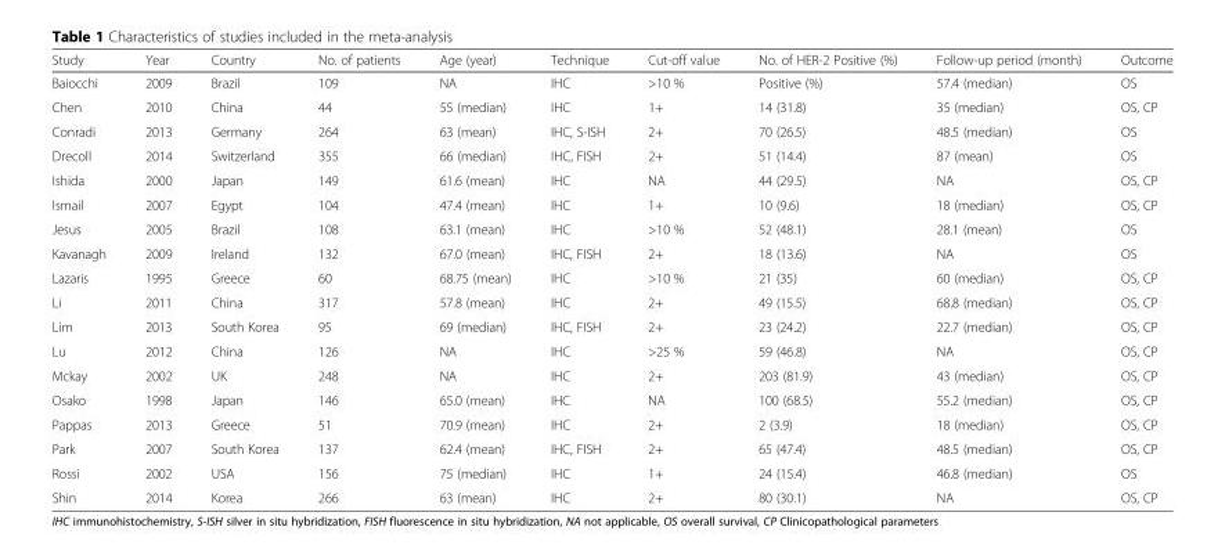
<table><thead><tr><td>Study</td><td>Year</td><td>Country</td><td>No. of patients</td><td>Age (year)</td><td>Technique</td><td>Cut-off value</td><td>No. of HER-2 Positive (%)</td><td>Follow-up period (month)</td><td>Outcome</td></tr></thead><tbody><tr><td>Baiocchi</td><td>2009</td><td>Brazil</td><td>109</td><td>NA</td><td>IHC</td><td>&gt;10 %</td><td>Positive (%)</td><td>57.4 (median)</td><td>OS</td></tr><tr><td>Chen</td><td>2010</td><td>China</td><td>44</td><td>55 (median)</td><td>IHC</td><td>1+</td><td>14 (31.8)</td><td>35 (median)</td><td>OS, CP</td></tr><tr><td>Conradi</td><td>2013</td><td>Germany</td><td>264</td><td>63 (mean)</td><td>IHC, S-ISH</td><td>2+</td><td>70 (26.5)</td><td>48.5 (median)</td><td>OS</td></tr><tr><td>Drecoll</td><td>2014</td><td>Switzerland</td><td>355</td><td>66 (median)</td><td>IHC, FISH</td><td>2+</td><td>51 (14.4)</td><td>87 (mean)</td><td>OS</td></tr><tr><td>Ishida</td><td>2000</td><td>Japan</td><td>149</td><td>61.6 (mean)</td><td>IHC</td><td>NA</td><td>44 (29.5)</td><td>NA</td><td>OS, CP</td></tr><tr><td>Ismail</td><td>2007</td><td>Egypt</td><td>104</td><td>47.4 (mean)</td><td>IHC</td><td>1+</td><td>10 (9.6)</td><td>18 (median)</td><td>OS, CP</td></tr><tr><td>Jesus</td><td>2005</td><td>Brazil</td><td>108</td><td>63.1 (mean)</td><td>IHC</td><td>&gt;10 %</td><td>52 (48.1)</td><td>28.1 (mean)</td><td>OS</td></tr><tr><td>Kavanagh</td><td>2009</td><td>Ireland</td><td>132</td><td>67.0 (mean)</td><td>IHC, FISH</td><td>2+</td><td>18 (13.6)</td><td>NA</td><td>OS</td></tr><tr><td>Lazaris</td><td>1995</td><td>Greece</td><td>60</td><td>68.75 (mean)</td><td>IHC</td><td>&gt;10 %</td><td>21 (35)</td><td>60 (median)</td><td>OS, CP</td></tr><tr><td>Li</td><td>2011</td><td>China</td><td>317</td><td>57.8 (mean)</td><td>IHC</td><td>2+</td><td>49 (15.5)</td><td>68.8 (median)</td><td>OS, CP</td></tr><tr><td>Lim</td><td>2013</td><td>South Korea</td><td>95</td><td>69 (median)</td><td>IHC, FISH</td><td>2+</td><td>23 (24.2)</td><td>22.7 (median)</td><td>OS, CP</td></tr><tr><td>Lu</td><td>2012</td><td>China</td><td>126</td><td>NA</td><td>IHC</td><td>&gt;25 %</td><td>59 (46.8)</td><td>NA</td><td>OS, CP</td></tr><tr><td>Mckay</td><td>2002</td><td>UK</td><td>248</td><td>NA</td><td>IHC</td><td>2+</td><td>203 (81.9)</td><td>43 (median)</td><td>OS, CP</td></tr><tr><td>Osako</td><td>1998</td><td>Japan</td><td>146</td><td>65.0 (mean)</td><td>IHC</td><td>NA</td><td>100 (68.5)</td><td>55.2 (median)</td><td>OS, CP</td></tr><tr><td>Pappas</td><td>2013</td><td>Greece</td><td>51</td><td>70.9 (mean)</td><td>IHC</td><td>2+</td><td>2 (3.9)</td><td>18 (median)</td><td>OS, CP</td></tr><tr><td>Park</td><td>2007</td><td>South Korea</td><td>137</td><td>62.4 (mean)</td><td>IHC, FISH</td><td>2+</td><td>65 (47.4)</td><td>48.5 (median)</td><td>OS, CP</td></tr><tr><td>Rossi</td><td>2002</td><td>USA</td><td>156</td><td>75 (median)</td><td>IHC</td><td>1+</td><td>24 (15.4)</td><td>46.8 (median)</td><td>OS</td></tr><tr><td>Shin</td><td>2014</td><td>Korea</td><td>266</td><td>63 (mean)</td><td>IHC</td><td>2+</td><td>80 (30.1)</td><td>NA</td><td>OS, CP</td></tr></tbody></table>